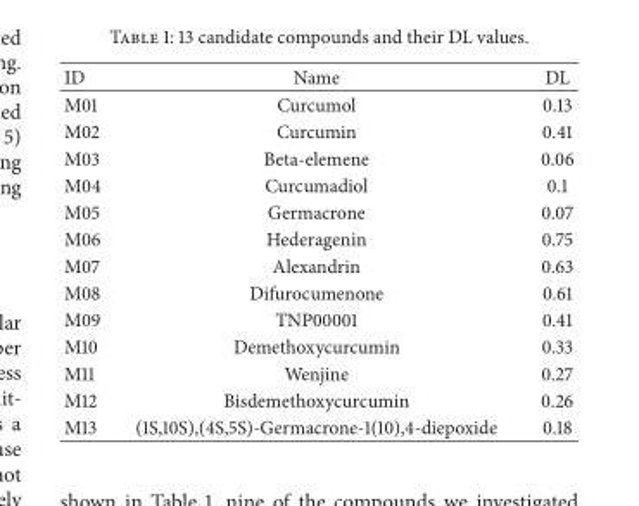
<table><thead><tr><td>ID</td><td>Name</td><td>DL</td></tr></thead><tbody><tr><td>M01</td><td>Curcumol</td><td>0.13</td></tr><tr><td>M02</td><td>Curcumin</td><td>0.41</td></tr><tr><td>M03</td><td>Beta-elemene</td><td>0.06</td></tr><tr><td>M04</td><td>Curcumadiol</td><td>0.1</td></tr><tr><td>M05</td><td>Germacrone</td><td>0.07</td></tr><tr><td>M06</td><td>Hederagenin</td><td>0.75</td></tr><tr><td>M07</td><td>Alexandrin</td><td>0.63</td></tr><tr><td>M08</td><td>Difurocumenone</td><td>0.61</td></tr><tr><td>M09</td><td>TNP00001</td><td>0.41</td></tr><tr><td>M10</td><td>Demethoxycurcumin</td><td>0.33</td></tr><tr><td>M11</td><td>Wenjine</td><td>0.27</td></tr><tr><td>M12</td><td>Bisdemethoxycurcumin</td><td>0.26</td></tr><tr><td>M13</td><td>(1S,10S),(4S,5S)-Germacrone-1(10),4-diepoxide</td><td>0.18</td></tr></tbody></table>